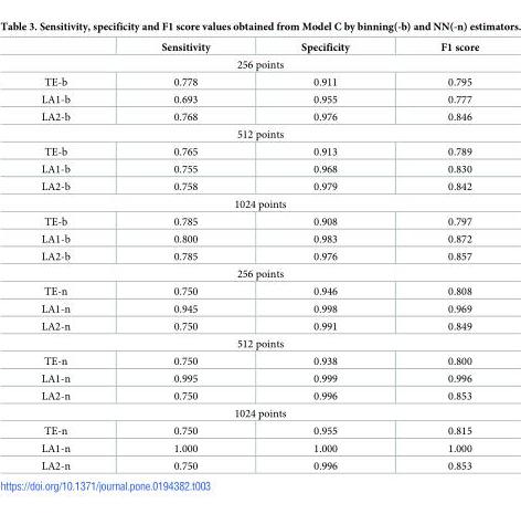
<table><thead><tr><td></td><td>Sensitivity</td><td>Specificity</td><td>F1 score</td></tr></thead><tbody><tr><td colspan="4">256 points</td></tr><tr><td>TE-b</td><td>0.778</td><td>0.911</td><td>0.795</td></tr><tr><td>LA1-b</td><td>0.693</td><td>0.955</td><td>0.777</td></tr><tr><td>LA2-b</td><td>0.768</td><td>0.976</td><td>0.846</td></tr><tr><td colspan="4">512 points</td></tr><tr><td>TE-b</td><td>0.765</td><td>0.913</td><td>0.789</td></tr><tr><td>LA1-b</td><td>0.755</td><td>0.968</td><td>0.830</td></tr><tr><td>LA2-b</td><td>0.758</td><td>0.979</td><td>0.842</td></tr><tr><td colspan="4">1024 points</td></tr><tr><td>TE-b</td><td>0.785</td><td>0.908</td><td>0.797</td></tr><tr><td>LA1-b</td><td>0.800</td><td>0.983</td><td>0.872</td></tr><tr><td>LA2-b</td><td>0.785</td><td>0.976</td><td>0.857</td></tr><tr><td colspan="4">256 points</td></tr><tr><td>TE-n</td><td>0.750</td><td>0.946</td><td>0.808</td></tr><tr><td>LA1-n</td><td>0.945</td><td>0.998</td><td>0.969</td></tr><tr><td>LA2-n</td><td>0.750</td><td>0.991</td><td>0.849</td></tr><tr><td colspan="4">512 points</td></tr><tr><td>TE-n</td><td>0.750</td><td>0.938</td><td>0.800</td></tr><tr><td>LA1-n</td><td>0.995</td><td>0.999</td><td>0.996</td></tr><tr><td>LA2-n</td><td>0.750</td><td>0.996</td><td>0.853</td></tr><tr><td colspan="4">1024 points</td></tr><tr><td>TE-n</td><td>0.750</td><td>0.955</td><td>0.815</td></tr><tr><td>LA1-n</td><td>1.000</td><td>1.000</td><td>1.000</td></tr><tr><td>LA2-n</td><td>0.750</td><td>0.996</td><td>0.853</td></tr></tbody></table>